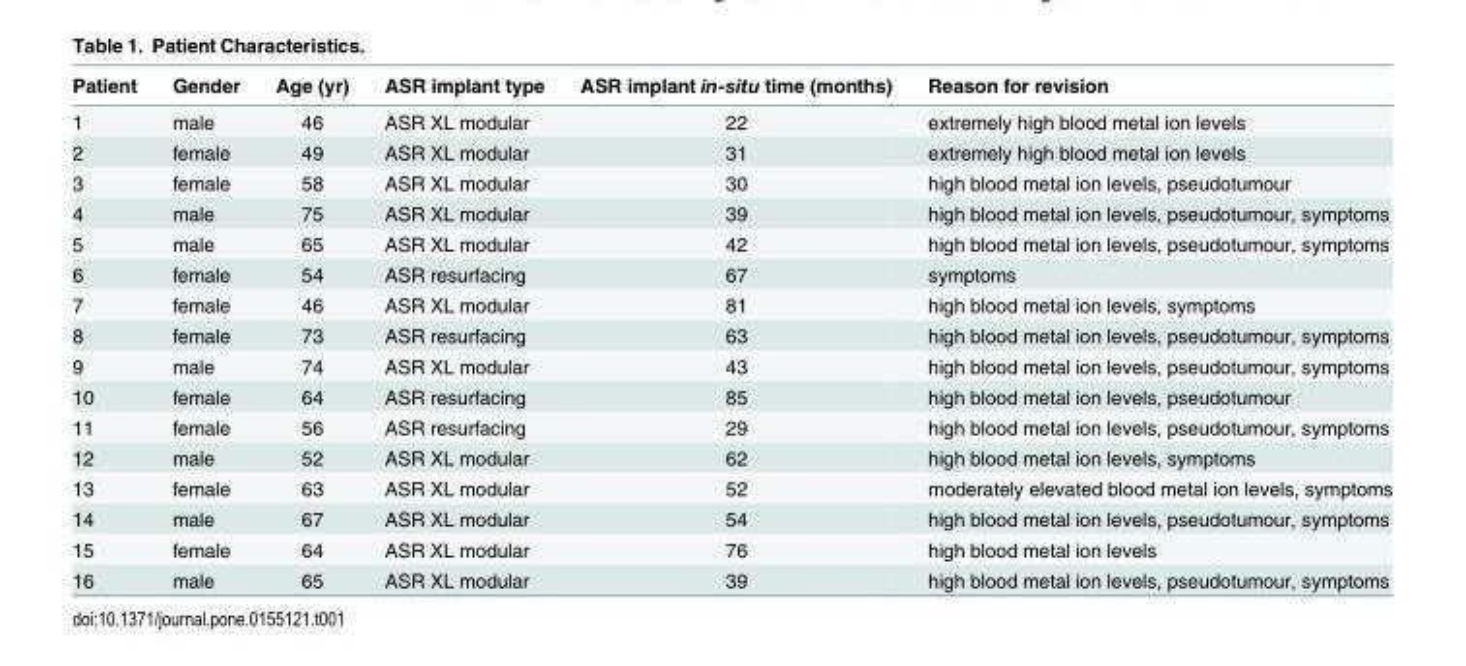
<table><thead><tr><td>Patient</td><td>Gender</td><td>Age (yr)</td><td>ASR implant type</td><td>ASR implant in-situ time (months)</td><td>Reason for revision</td></tr></thead><tbody><tr><td>1</td><td>male</td><td>46</td><td>ASR XL modular</td><td>22</td><td>extremely high blood metal ion levels</td></tr><tr><td>2</td><td>female</td><td>49</td><td>ASR XL modular</td><td>31</td><td>extremely high blood metal ion levels</td></tr><tr><td>3</td><td>female</td><td>58</td><td>ASR XL modular</td><td>30</td><td>high blood metal ion levels, pseudotumour</td></tr><tr><td>4</td><td>male</td><td>75</td><td>ASR XL modular</td><td>39</td><td>high blood metal ion levels, pseudotumour, symptoms</td></tr><tr><td>5</td><td>male</td><td>65</td><td>ASR XL modular</td><td>42</td><td>high blood metal ion levels, pseudotumour, symptoms</td></tr><tr><td>6</td><td>female</td><td>54</td><td>ASR resurfacing</td><td>67</td><td>symptoms</td></tr><tr><td>7</td><td>female</td><td>46</td><td>ASR XL modular</td><td>81</td><td>high blood metal ion levels, symptoms</td></tr><tr><td>8</td><td>female</td><td>73</td><td>ASR resurfacing</td><td>63</td><td>high blood metal ion levels, pseudotumour, symptoms</td></tr><tr><td>9</td><td>male</td><td>74</td><td>ASR XL modular</td><td>43</td><td>high blood metal ion levels, pseudotumour, symptoms</td></tr><tr><td>10</td><td>female</td><td>64</td><td>ASR resurfacing</td><td>85</td><td>high blood metal ion levels, pseudotumour</td></tr><tr><td>11</td><td>female</td><td>56</td><td>ASR resurfacing</td><td>29</td><td>high blood metal ion levels, pseudotumour, symptoms</td></tr><tr><td>12</td><td>male</td><td>52</td><td>ASR XL modular</td><td>62</td><td>high blood metal ion levels, symptoms</td></tr><tr><td>13</td><td>female</td><td>63</td><td>ASR XL modular</td><td>52</td><td>moderately elevated blood metal ion levels, symptoms</td></tr><tr><td>14</td><td>male</td><td>67</td><td>ASR XL modular</td><td>54</td><td>high blood metal ion levels, pseudotumour, symptoms</td></tr><tr><td>15</td><td>female</td><td>64</td><td>ASR XL modular</td><td>76</td><td>high blood metal ion levels</td></tr><tr><td>16</td><td>male</td><td>65</td><td>ASR XL modular</td><td>39</td><td>high blood metal ion levels, pseudotumour, symptoms</td></tr></tbody></table>